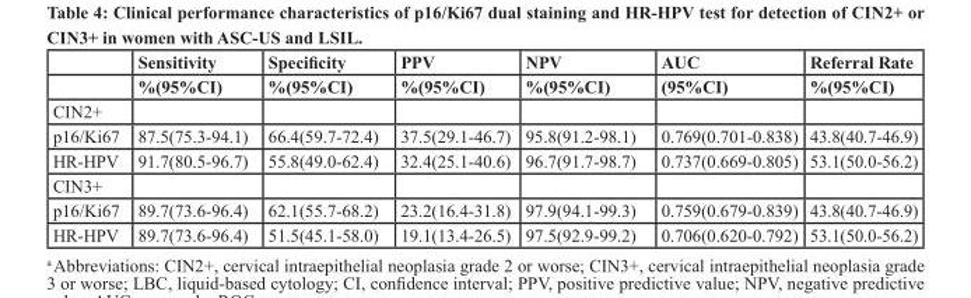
<table><thead><tr><td rowspan="2"></td><td rowspan="2">Sensitivity %(95%CI)</td><td rowspan="2">Specificity %(95%CI)</td><td rowspan="2">PPV %(95%CI)</td><td rowspan="2">NPV %(95%CI)</td><td rowspan="2">AUC (95%CI)</td><td rowspan="2">Referral Rate %(95%CI)</td></tr><tr></tr></thead><tbody><tr><td colspan="7">CIN2+</td></tr><tr><td>p16/Ki67</td><td>87.5(75.3-94.1)</td><td>66.4(59.7-72.4)</td><td>37.5(29.1-46.7)</td><td>95.8(91.2-98.1)</td><td>0.769(0.701-0.838)</td><td>43.8(40.7-46.9)</td></tr><tr><td>HR-HPV</td><td>91.7(80.5-96.7)</td><td>55.8(49.0-62.4)</td><td>32.4(25.1-40.6)</td><td>96.7(91.7-98.7)</td><td>0.737(0.669-0.805)</td><td>53.1(50.0-56.2)</td></tr><tr><td colspan="7">CIN3+</td></tr><tr><td>p16/Ki67</td><td>89.7(73.6-96.4)</td><td>62.1(55.7-68.2)</td><td>23.2(16.4-31.8)</td><td>97.9(94.1-99.3)</td><td>0.759(0.679-0.839)</td><td>43.8(40.7-46.9)</td></tr><tr><td>HR-HPV</td><td>89.7(73.6-96.4)</td><td>51.5(45.1-58.0)</td><td>19.1(13.4-26.5)</td><td>97.5(92.9-99.2)</td><td>0.706(0.620-0.792)</td><td>53.1(50.0-56.2)</td></tr></tbody></table>